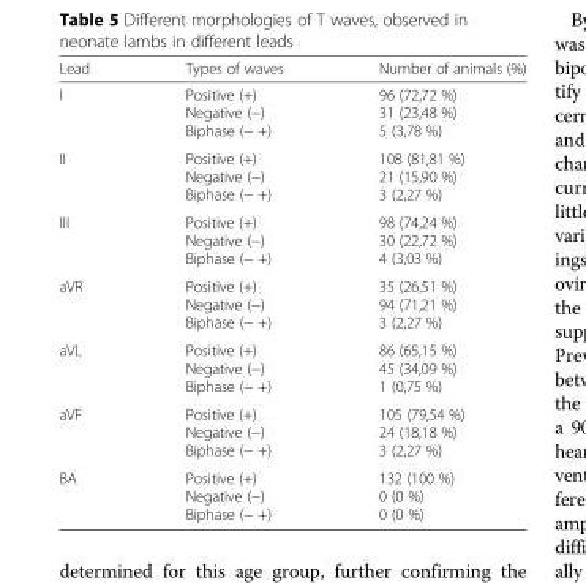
<table><thead><tr><td>Lead</td><td>Types of waves</td><td>Number of animals (%)</td></tr></thead><tbody><tr><td>I</td><td>Positive (+) Negative (−) Biphase (− +)</td><td>96 (72,72 %) 31 (23,48 %) 5 (3,78 %)</td></tr><tr><td>II</td><td>Positive (+) Negative (−) Biphase (− +)</td><td>108 (81,81 %) 21 (15,90 %) 3 (2,27 %)</td></tr><tr><td>III</td><td>Positive (+) Negative (−) Biphase (− +)</td><td>98 (74,24 %) 30 (22,72 %) 4 (3,03 %)</td></tr><tr><td>aVR</td><td>Positive (+) Negative (−) Biphase (− +)</td><td>35 (26,51 %) 94 (71,21 %) 3 (2,27 %)</td></tr><tr><td>aVL</td><td>Positive (+) Negative (−) Biphase (− +)</td><td>86 (65,15 %) 45 (34,09 %) 1 (0,75 %)</td></tr><tr><td>aVF</td><td>Positive (+) Negative (−) Biphase (− +)</td><td>105 (79,54 %) 24 (18,18 %) 3 (2,27 %)</td></tr><tr><td>BA</td><td>Positive (+) Negative (−) Biphase (− +)</td><td>132 (100 %) 0 (0 %) 0 (0 %)</td></tr></tbody></table>